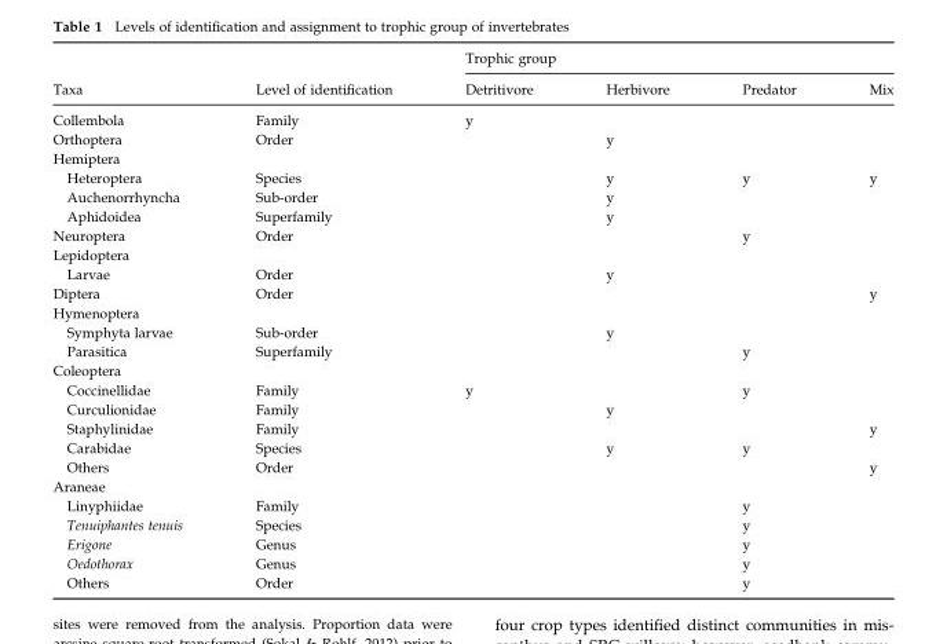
<table><thead><tr><td rowspan="2">Taxa</td><td rowspan="2">Level of identification</td><td colspan="4">Trophic group</td></tr><tr><td>Detritivore</td><td>Herbivore</td><td>Predator</td><td>Mix</td></tr></thead><tbody><tr><td>Collembola</td><td>Family</td><td>y</td><td></td><td></td><td></td></tr><tr><td>Orthoptera</td><td>Order</td><td></td><td>y</td><td></td><td></td></tr><tr><td colspan="6">Hemiptera</td></tr><tr><td>Heteroptera</td><td>Species</td><td></td><td>y</td><td>y</td><td>y</td></tr><tr><td>Auchenorrhyncha</td><td>Sub-order</td><td></td><td>y</td><td></td><td></td></tr><tr><td>Aphidoidea</td><td>Superfamily</td><td></td><td>y</td><td></td><td></td></tr><tr><td>Neuroptera</td><td>Order</td><td></td><td></td><td>y</td><td></td></tr><tr><td colspan="6">Lepidoptera</td></tr><tr><td>Larvae</td><td>Order</td><td></td><td>y</td><td></td><td></td></tr><tr><td>Diptera</td><td>Order</td><td></td><td></td><td></td><td>y</td></tr><tr><td colspan="6">Hymenoptera</td></tr><tr><td>Symphyta larvae</td><td>Sub-order</td><td></td><td>y</td><td></td><td></td></tr><tr><td>Parasitica</td><td>Superfamily</td><td></td><td></td><td>y</td><td></td></tr><tr><td colspan="6">Coleoptera</td></tr><tr><td>Coccinellidae</td><td>Family</td><td>y</td><td></td><td>y</td><td></td></tr><tr><td>Curculionidae</td><td>Family</td><td></td><td>y</td><td></td><td></td></tr><tr><td>Staphylinidae</td><td>Family</td><td></td><td></td><td></td><td>y</td></tr><tr><td>Carabidae</td><td>Species</td><td></td><td>y</td><td>y</td><td></td></tr><tr><td>Others</td><td>Order</td><td></td><td></td><td></td><td>y</td></tr><tr><td colspan="6">Araneae</td></tr><tr><td>Linyphiidae</td><td>Family</td><td></td><td></td><td>y</td><td></td></tr><tr><td>Tenuiphantes tenuis</td><td>Species</td><td></td><td></td><td>y</td><td></td></tr><tr><td>Erigone</td><td>Genus</td><td></td><td></td><td>y</td><td></td></tr><tr><td>Oedothorax</td><td>Genus</td><td></td><td></td><td>y</td><td></td></tr><tr><td>Others</td><td>Order</td><td></td><td></td><td>y</td><td></td></tr></tbody></table>